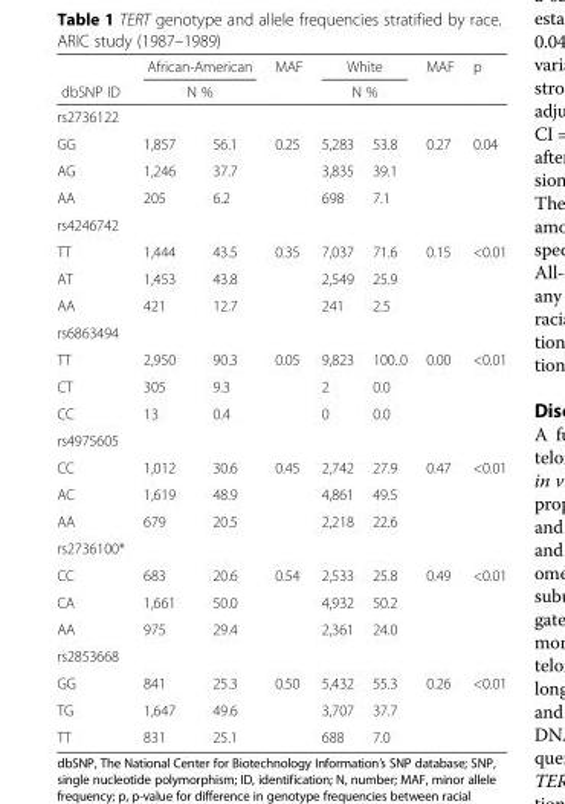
<table><thead><tr><td rowspan="3">dbSNP ID rs2736122</td><td rowspan="2" colspan="2">African-American N %</td><td rowspan="3">MAF</td><td rowspan="2" colspan="2">White N %</td><td rowspan="3">MAF</td><td rowspan="3">p</td></tr><tr></tr><tr><td></td><td></td><td></td><td></td></tr></thead><tbody><tr><td>GG</td><td>1,857</td><td>56.1</td><td>0.25</td><td>5,283</td><td>53.8</td><td>0.27</td><td>0.04</td></tr><tr><td>AG</td><td>1,246</td><td>37.7</td><td></td><td>3,835</td><td>39.1</td><td></td><td></td></tr><tr><td>AA</td><td>205</td><td>6.2</td><td></td><td>698</td><td>7.1</td><td></td><td></td></tr><tr><td colspan="8">rs4246742</td></tr><tr><td>TT</td><td>1,444</td><td>43.5</td><td>0.35</td><td>7,037</td><td>71.6</td><td>0.15</td><td>&lt;0.01</td></tr><tr><td>AT</td><td>1,453</td><td>43.8</td><td></td><td>2,549</td><td>25.9</td><td></td><td></td></tr><tr><td>AA</td><td>421</td><td>12.7</td><td></td><td>241</td><td>2.5</td><td></td><td></td></tr><tr><td colspan="8">rs6863494</td></tr><tr><td>TT</td><td>2,950</td><td>90.3</td><td>0.05</td><td>9,823</td><td>100..0</td><td>0.00</td><td>&lt;0.01</td></tr><tr><td>CT</td><td>305</td><td>9.3</td><td></td><td>2</td><td>0.0</td><td></td><td></td></tr><tr><td>CC</td><td>13</td><td>0.4</td><td></td><td>0</td><td>0.0</td><td></td><td></td></tr><tr><td colspan="8">rs4975605</td></tr><tr><td>CC</td><td>1,012</td><td>30.6</td><td>0.45</td><td>2,742</td><td>27.9</td><td>0.47</td><td>&lt;0.01</td></tr><tr><td>AC</td><td>1,619</td><td>48.9</td><td></td><td>4,861</td><td>49.5</td><td></td><td></td></tr><tr><td>AA</td><td>679</td><td>20.5</td><td></td><td>2,218</td><td>22.6</td><td></td><td></td></tr><tr><td colspan="8">rs2736100*</td></tr><tr><td>CC</td><td>683</td><td>20.6</td><td>0.54</td><td>2,533</td><td>25.8</td><td>0.49</td><td>&lt;0.01</td></tr><tr><td>CA</td><td>1,661</td><td>50.0</td><td></td><td>4,932</td><td>50.2</td><td></td><td></td></tr><tr><td>AA</td><td>975</td><td>29.4</td><td></td><td>2,361</td><td>24.0</td><td></td><td></td></tr><tr><td colspan="8">rs2853668</td></tr><tr><td>GG</td><td>841</td><td>25.3</td><td>0.50</td><td>5,432</td><td>55.3</td><td>0.26</td><td>&lt;0.01</td></tr><tr><td>TG</td><td>1,647</td><td>49.6</td><td></td><td>3,707</td><td>37.7</td><td></td><td></td></tr><tr><td>TT</td><td>831</td><td>25.1</td><td></td><td>688</td><td>7.0</td><td></td><td></td></tr></tbody></table>